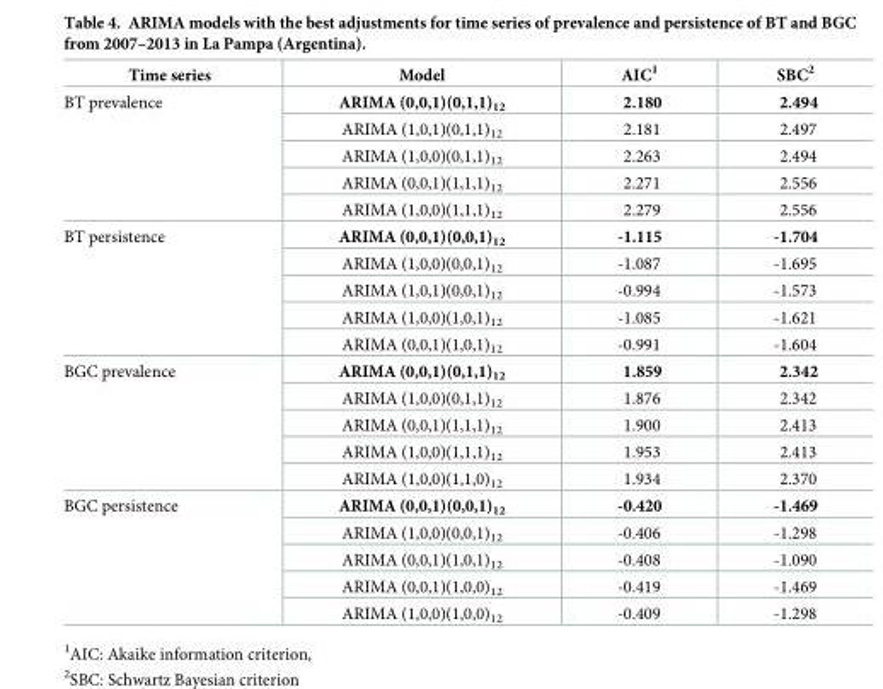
<table><thead><tr><td>Time series</td><td>Model</td><td>AIC<sup>1</sup></td><td>SBC<sup>2</sup></td></tr></thead><tbody><tr><td rowspan="5">BT prevalence</td><td>ARIMA (0,0,1)(0,1,1)<sub>12</sub></td><td>2.180</td><td>2.494</td></tr><tr><td>ARIMA (1,0,1)(0,1,1)<sub>12</sub></td><td>2.181</td><td>2.497</td></tr><tr><td>ARIMA (1,0,0)(0,1,1)<sub>12</sub></td><td>2.263</td><td>2.494</td></tr><tr><td>ARIMA (0,0,1)(1,1,1)<sub>12</sub></td><td>2.271</td><td>2.556</td></tr><tr><td>ARIMA (1,0,0)(1,1,1)<sub>12</sub></td><td>2.279</td><td>2.556</td></tr><tr><td rowspan="5">BT persistence</td><td>ARIMA (0,0,1)(0,0,1)<sub>12</sub></td><td>-1.115</td><td>-1.704</td></tr><tr><td>ARIMA (1,0,0)(0,0,1)<sub>12</sub></td><td>-1.087</td><td>-1.695</td></tr><tr><td>ARIMA (1,0,1)(0,0,1)<sub>12</sub></td><td>-0.994</td><td>-1.573</td></tr><tr><td>ARIMA (1,0,0)(1,0,1)<sub>12</sub></td><td>-1.085</td><td>-1.621</td></tr><tr><td>ARIMA (0,0,1)(1,0,1)<sub>12</sub></td><td>-0.991</td><td>-1.604</td></tr><tr><td rowspan="5">BGC prevalence</td><td>ARIMA (0,0,1)(0,1,1)<sub>12</sub></td><td>1.859</td><td>2.342</td></tr><tr><td>ARIMA (1,0,0)(0,1,1)<sub>12</sub></td><td>1.876</td><td>2.342</td></tr><tr><td>ARIMA (0,0,1)(1,1,1)<sub>12</sub></td><td>1.900</td><td>2.413</td></tr><tr><td>ARIMA (1,0,0)(1,1,1)<sub>12</sub></td><td>1.953</td><td>2.413</td></tr><tr><td>ARIMA (1,0,0)(1,1,0)<sub>12</sub></td><td>1.934</td><td>2.370</td></tr><tr><td rowspan="5">BGC persistence</td><td>ARIMA (0,0,1)(0,0,1)<sub>12</sub></td><td>-0.420</td><td>-1.469</td></tr><tr><td>ARIMA (1,0,0)(0,0,1)<sub>12</sub></td><td>-0.406</td><td>-1.298</td></tr><tr><td>ARIMA (0,0,1)(1,0,1)<sub>12</sub></td><td>-0.408</td><td>-1.090</td></tr><tr><td>ARIMA (0,0,1)(1,0,0)<sub>12</sub></td><td>-0.419</td><td>-1.469</td></tr><tr><td>ARIMA (1,0,0)(1,0,0)<sub>12</sub></td><td>-0.409</td><td>-1.298</td></tr></tbody></table>